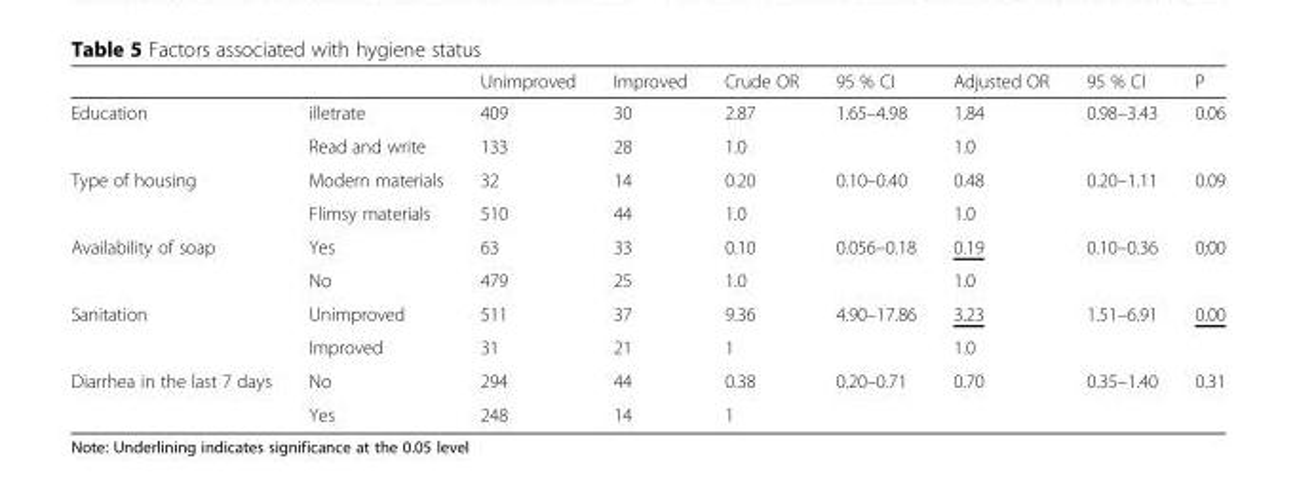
<table><thead><tr><td></td><td></td><td>Unimproved</td><td>Improved</td><td>Crude OR</td><td>95 % CI</td><td>Adjusted OR</td><td>95 % CI</td><td>P</td></tr></thead><tbody><tr><td rowspan="2">Education</td><td>illetrate</td><td>409</td><td>30</td><td>2.87</td><td>1.65–4.98</td><td>1.84</td><td>0.98–3.43</td><td>0.06</td></tr><tr><td>Read and write</td><td>133</td><td>28</td><td>1.0</td><td></td><td>1.0</td><td></td><td></td></tr><tr><td rowspan="2">Type of housing</td><td>Modern materials</td><td>32</td><td>14</td><td>0.20</td><td>0.10–0.40</td><td>0.48</td><td>0.20–1.11</td><td>0.09</td></tr><tr><td>Flimsy materials</td><td>510</td><td>44</td><td>1.0</td><td></td><td>1.0</td><td></td><td></td></tr><tr><td rowspan="2">Availability of soap</td><td>Yes</td><td>63</td><td>33</td><td>0.10</td><td>0.056–0.18</td><td>0.19</td><td>0.10–0.36</td><td>0;00</td></tr><tr><td>No</td><td>479</td><td>25</td><td>1.0</td><td></td><td>1.0</td><td></td><td></td></tr><tr><td rowspan="2">Sanitation</td><td>Unimproved</td><td>511</td><td>37</td><td>9.36</td><td>4.90–17.86</td><td>3.23</td><td>1.51–6.91</td><td>0.00</td></tr><tr><td>Improved</td><td>31</td><td>21</td><td>1</td><td></td><td>1.0</td><td></td><td></td></tr><tr><td rowspan="2">Diarrhea in the last 7 days</td><td>No</td><td>294</td><td>44</td><td>0.38</td><td>0.20–0.71</td><td>0.70</td><td>0.35–1.40</td><td>0.31</td></tr><tr><td>Yes</td><td>248</td><td>14</td><td>1</td><td></td><td></td><td></td><td></td></tr></tbody></table>